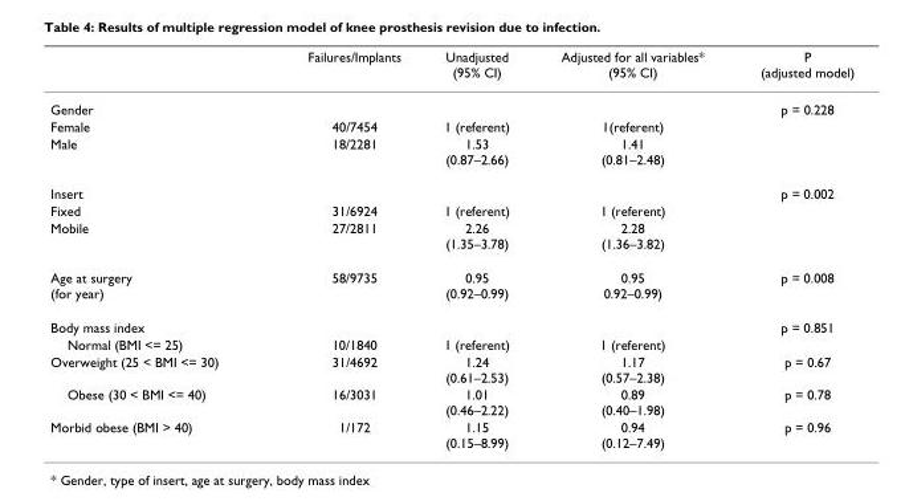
<table><thead><tr><td></td><td>Failures/Implants</td><td>Unadjusted (95% CI)</td><td>Adjusted for all variables* (95% CI)</td><td>P (adjusted model)</td></tr></thead><tbody><tr><td>Gender</td><td></td><td></td><td></td><td>p = 0.228</td></tr><tr><td>Female</td><td>40/7454</td><td>1 (referent)</td><td>1(referent)</td><td></td></tr><tr><td>Male</td><td>18/2281</td><td>1.53 (0.87–2.66)</td><td>1.41 (0.81–2.48)</td><td></td></tr><tr><td>Insert</td><td></td><td></td><td></td><td>p = 0.002</td></tr><tr><td>Fixed</td><td>31/6924</td><td>1 (referent)</td><td>1 (referent)</td><td></td></tr><tr><td>Mobile</td><td>27/2811</td><td>2.26 (1.35–3.78)</td><td>2.28 (1.36–3.82)</td><td></td></tr><tr><td>Age at surgery (for year)</td><td>58/9735</td><td>0.95 (0.92–0.99)</td><td>0.95 0.92–0.99)</td><td>p = 0.008</td></tr><tr><td>Body mass index</td><td></td><td></td><td></td><td>p = 0.851</td></tr><tr><td>Normal (BMI &lt;= 25)</td><td>10/1840</td><td>1 (referent)</td><td>1 (referent)</td><td></td></tr><tr><td>Overweight (25 &lt; BMI &lt;= 30)</td><td>31/4692</td><td>1.24 (0.61–2.53)</td><td>1.17 (0.57–2.38)</td><td>p = 0.67</td></tr><tr><td>Obese (30 &lt; BMI &lt;= 40)</td><td>16/3031</td><td>1.01 (0.46–2.22)</td><td>0.89 (0.40–1.98)</td><td>p = 0.78</td></tr><tr><td>Morbid obese (BMI &gt; 40)</td><td>1/172</td><td>1.15 (0.15–8.99)</td><td>0.94 (0.12–7.49)</td><td>p = 0.96</td></tr></tbody></table>